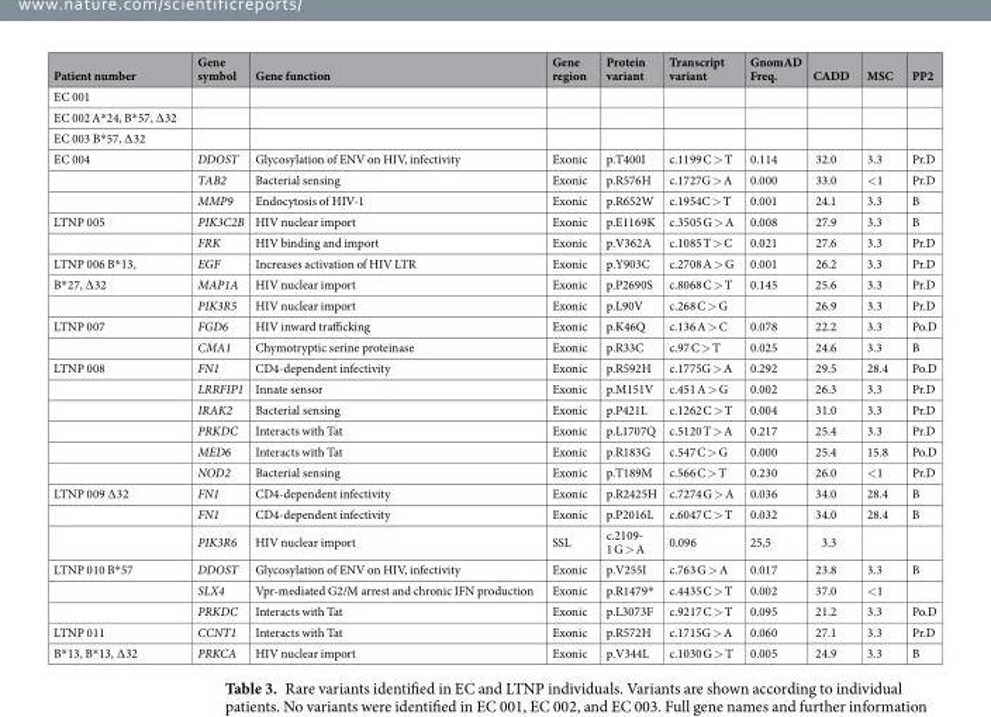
<table><thead><tr><td>Patient number</td><td>Gene symbol</td><td>Gene function</td><td>Gene region</td><td>Protein variant</td><td>Transcript variant</td><td>GnomAD Freq.</td><td>CADD</td><td>MSC</td><td>PP2</td></tr></thead><tbody><tr><td colspan="10">EC 001</td></tr><tr><td colspan="10">EC 002 A*24, B*57, ∆32</td></tr><tr><td colspan="10">EC 003 B*57, ∆32</td></tr><tr><td rowspan="3">EC 004</td><td>DDOST</td><td>Glycosylation of ENV on HIV, infectivity</td><td>Exonic</td><td>p.T400I</td><td>c.1199 C &gt; T</td><td>0.114</td><td>32.0</td><td>3.3</td><td>Pr.D</td></tr><tr><td>TAB2</td><td>Bacterial sensing</td><td>Exonic</td><td>p.R576H</td><td>c.1727G &gt; A</td><td>0.000</td><td>33.0</td><td>&lt;1</td><td>Pr.D</td></tr><tr><td>MMP9</td><td>Endocytosis of HIV-1</td><td>Exonic</td><td>p.R652W</td><td>c.1954C &gt; T</td><td>0.001</td><td>24.1</td><td>3.3</td><td>B</td></tr><tr><td rowspan="2">LTNP 005</td><td>PIK3C2B</td><td>HIV nuclear import</td><td>Exonic</td><td>p.E1169K</td><td>c.3505 G &gt; A</td><td>0.008</td><td>27.9</td><td>3.3</td><td>B</td></tr><tr><td>FRK</td><td>HIV binding and import</td><td>Exonic</td><td>p.V362A</td><td>c.1085 T &gt; C</td><td>0.021</td><td>27.6</td><td>3.3</td><td>Pr.D</td></tr><tr><td>LTNP 006 B*13,</td><td>EGF</td><td>Increases activation of HIV LTR</td><td>Exonic</td><td>p.Y903C</td><td>c.2708 A &gt; G</td><td>0.001</td><td>26.2</td><td>3.3</td><td>Pr.D</td></tr><tr><td rowspan="2">B*27, ∆32</td><td>MAP1A</td><td>HIV nuclear import</td><td>Exonic</td><td>p.P2690S</td><td>c.8068 C &gt; T</td><td>0.145</td><td>25.6</td><td>3.3</td><td>Pr.D</td></tr><tr><td>PIK3R5</td><td>HIV nuclear import</td><td>Exonic</td><td>p.L90V</td><td>c.268 C &gt; G</td><td></td><td>26.9</td><td>3.3</td><td>Pr.D</td></tr><tr><td rowspan="2">LTNP 007</td><td>FGD6</td><td>HIV inward trafficking</td><td>Exonic</td><td>p.K46Q</td><td>c.136 A &gt; C</td><td>0.078</td><td>22.2</td><td>3.3</td><td>Po.D</td></tr><tr><td>CMA1</td><td>Chymotryptic serine proteinase</td><td>Exonic</td><td>p.R33C</td><td>c.97 C &gt; T</td><td>0.025</td><td>24.6</td><td>3.3</td><td>B</td></tr><tr><td rowspan="6">LTNP 008</td><td>FN1</td><td>CD4-dependent infectivity</td><td>Exonic</td><td>p.R592H</td><td>c.1775G &gt; A</td><td>0.292</td><td>29.5</td><td>28.4</td><td>Po.D</td></tr><tr><td>LRRFIP1</td><td>Innate sensor</td><td>Exonic</td><td>p.M151V</td><td>c.451 A &gt; G</td><td>0.002</td><td>26.3</td><td>3.3</td><td>Pr.D</td></tr><tr><td>IRAK2</td><td>Bacterial sensing</td><td>Exonic</td><td>p.P421L</td><td>c.1262 C &gt; T</td><td>0.004</td><td>31.0</td><td>3.3</td><td>Pr.D</td></tr><tr><td>PRKDC</td><td>Interacts with Tat</td><td>Exonic</td><td>p.L1707Q</td><td>c.5120 T &gt; A</td><td>0.217</td><td>25.4</td><td>3.3</td><td>Pr.D</td></tr><tr><td>MED6</td><td>Interacts with Tat</td><td>Exonic</td><td>p.R183G</td><td>c.547 C &gt; G</td><td>0.000</td><td>25.4</td><td>15.8</td><td>Po.D</td></tr><tr><td>NOD2</td><td>Bacterial sensing</td><td>Exonic</td><td>p.T189M</td><td>c.566 C &gt; T</td><td>0.230</td><td>26.0</td><td>&lt;1</td><td>Pr.D</td></tr><tr><td rowspan="3">LTNP 009 ∆32</td><td>FN1</td><td>CD4-dependent infectivity</td><td>Exonic</td><td>p.R2425H</td><td>c.7274 G &gt; A</td><td>0.036</td><td>34.0</td><td>28.4</td><td>B</td></tr><tr><td>FN1</td><td>CD4-dependent infectivity</td><td>Exonic</td><td>p.P2016L</td><td>c.6047 C &gt; T</td><td>0.032</td><td>34.0</td><td>28.4</td><td>B</td></tr><tr><td>PIK3R6</td><td>HIV nuclear import</td><td>SSL</td><td>c.2109- 1 G &gt; A</td><td>0.096</td><td>25,5</td><td>3.3</td><td></td><td></td></tr><tr><td rowspan="3">LTNP 010 B*57</td><td>DDOST</td><td>Glycosylation of ENV on HIV, infectivity</td><td>Exonic</td><td>p.V255I</td><td>c.763 G &gt; A</td><td>0.017</td><td>23.8</td><td>3.3</td><td>B</td></tr><tr><td>SLX4</td><td>Vpr-mediated G2/M arrest and chronic IFN production</td><td>Exonic</td><td>p.R1479*</td><td>c.4435 C &gt; T</td><td>0.002</td><td>37.0</td><td>&lt;1</td><td></td></tr><tr><td>PRKDC</td><td>Interacts with Tat</td><td>Exonic</td><td>p.L3073F</td><td>c.9217 C &gt; T</td><td>0.095</td><td>21.2</td><td>3.3</td><td>Po.D</td></tr><tr><td>LTNP 011</td><td>CCNT1</td><td>Interacts with Tat</td><td>Exonic</td><td>p.R572H</td><td>c.1715G &gt; A</td><td>0.060</td><td>27.1</td><td>3.3</td><td>Pr.D</td></tr><tr><td>B*13, B*13, ∆32</td><td>PRKCA</td><td>HIV nuclear import</td><td>Exonic</td><td>p.V344L</td><td>c.1030 G &gt; T</td><td>0.005</td><td>24.9</td><td>3.3</td><td>B</td></tr></tbody></table>